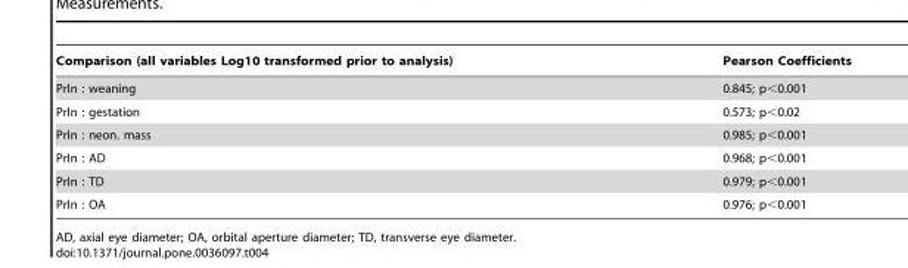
<table><thead><tr><td>Comparison (all variables Log10 transformed prior to analysis)</td><td>Pearson Coefficients</td></tr></thead><tbody><tr><td>PrIn : weaning</td><td>0.845; p&lt;0.001</td></tr><tr><td>PrIn : gestation</td><td>0.573; p&lt;0.02</td></tr><tr><td>PrIn : neon. mass</td><td>0.985; p&lt;0.001</td></tr><tr><td>PrIn : AD</td><td>0.968; p&lt;0.001</td></tr><tr><td>PrIn : TD</td><td>0.979; p&lt;0.001</td></tr><tr><td>PrIn : OA</td><td>0.976; p&lt;0.001</td></tr></tbody></table>